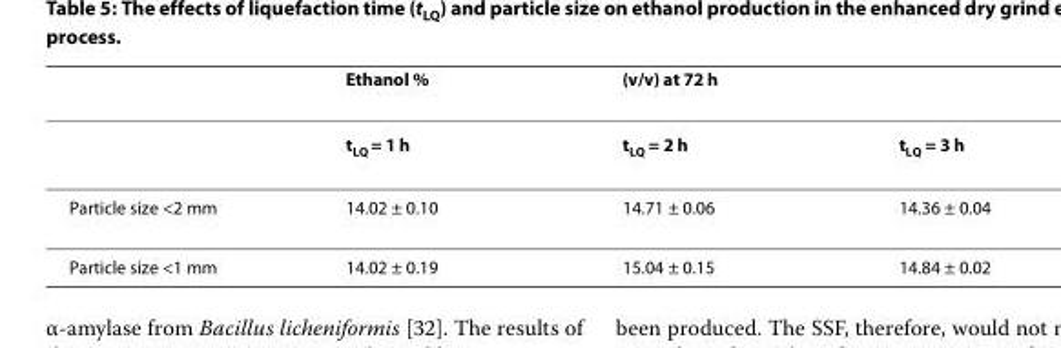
<table><thead><tr><td></td><td>Ethanol %</td><td>(v/v) at 72 h</td><td></td></tr></thead><tbody><tr><td></td><td>t<sub>LQ</sub> = 1 h</td><td>t<sub>LQ</sub> = 2 h</td><td>t<sub>LQ</sub> = 3 h</td></tr><tr><td>Particle size &lt;2 mm</td><td>14.02 ± 0.10</td><td>14.71 ± 0.06</td><td>14.36 ± 0.04</td></tr><tr><td>Particle size &lt;1 mm</td><td>14.02 ± 0.19</td><td>15.04 ± 0.15</td><td>14.84 ± 0.02</td></tr></tbody></table>